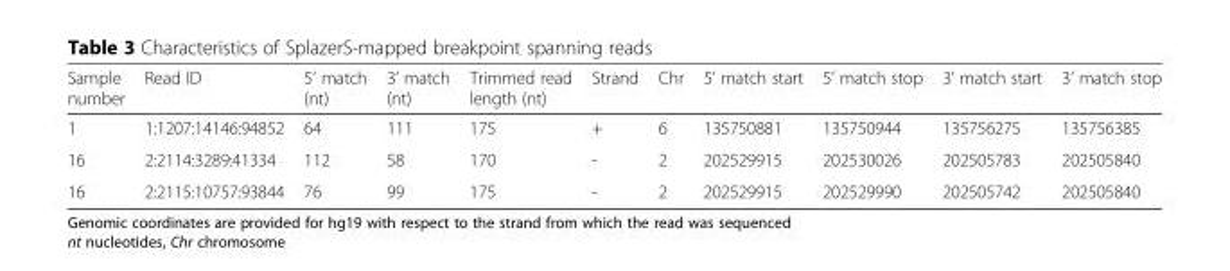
<table><thead><tr><td>Sample number</td><td>Read ID</td><td>5’ match (nt)</td><td>3’ match (nt)</td><td>Trimmed read length (nt)</td><td>Strand</td><td>Chr</td><td>5’ match start</td><td>5’ match stop</td><td>3’ match start</td><td>3’ match stop</td></tr></thead><tbody><tr><td>1</td><td>1:1207:14146:94852</td><td>64</td><td>111</td><td>175</td><td>+</td><td>6</td><td>135750881</td><td>135750944</td><td>135756275</td><td>135756385</td></tr><tr><td>16</td><td>2:2114:3289:41334</td><td>112</td><td>58</td><td>170</td><td>-</td><td>2</td><td>202529915</td><td>202530026</td><td>202505783</td><td>202505840</td></tr><tr><td>16</td><td>2:2115:10757:93844</td><td>76</td><td>99</td><td>175</td><td>-</td><td>2</td><td>202529915</td><td>202529990</td><td>202505742</td><td>202505840</td></tr></tbody></table>